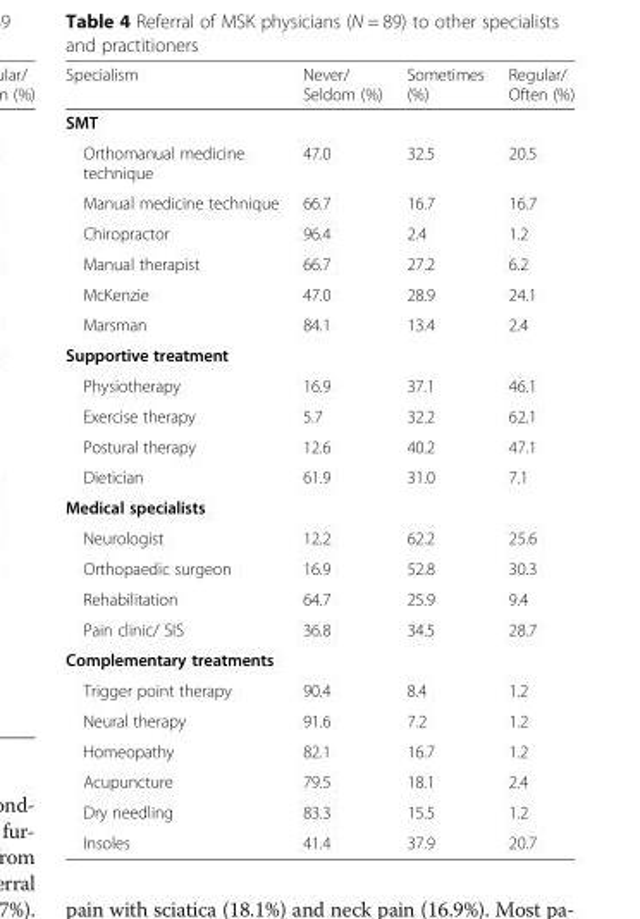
<table><thead><tr><td>Specialism</td><td>Never/ Seldom (%)</td><td>Sometimes (%)</td><td>Regular/ Often (%)</td></tr></thead><tbody><tr><td colspan="4">SMT</td></tr><tr><td>Orthomanual medicine technique</td><td>47.0</td><td>32.5</td><td>20.5</td></tr><tr><td>Manual medicine technique</td><td>66.7</td><td>16.7</td><td>16.7</td></tr><tr><td>Chiropractor</td><td>96.4</td><td>2.4</td><td>1.2</td></tr><tr><td>Manual therapist</td><td>66.7</td><td>27.2</td><td>6.2</td></tr><tr><td>McKenzie</td><td>47.0</td><td>28.9</td><td>24.1</td></tr><tr><td>Marsman</td><td>84.1</td><td>13.4</td><td>2.4</td></tr><tr><td colspan="4">Supportive treatment</td></tr><tr><td>Physiotherapy</td><td>16.9</td><td>37.1</td><td>46.1</td></tr><tr><td>Exercise therapy</td><td>5.7</td><td>32.2</td><td>62.1</td></tr><tr><td>Postural therapy</td><td>12.6</td><td>40.2</td><td>47.1</td></tr><tr><td>Dietician</td><td>61.9</td><td>31.0</td><td>7.1</td></tr><tr><td colspan="4">Medical specialists</td></tr><tr><td>Neurologist</td><td>12.2</td><td>62.2</td><td>25.6</td></tr><tr><td>Orthopaedic surgeon</td><td>16.9</td><td>52.8</td><td>30.3</td></tr><tr><td>Rehabilitation</td><td>64.7</td><td>25.9</td><td>9.4</td></tr><tr><td>Pain clinic/ SIS</td><td>36.8</td><td>34.5</td><td>28.7</td></tr><tr><td colspan="4">Complementary treatments</td></tr><tr><td>Trigger point therapy</td><td>90.4</td><td>8.4</td><td>1.2</td></tr><tr><td>Neural therapy</td><td>91.6</td><td>7.2</td><td>1.2</td></tr><tr><td>Homeopathy</td><td>82.1</td><td>16.7</td><td>1.2</td></tr><tr><td>Acupuncture</td><td>79.5</td><td>18.1</td><td>2.4</td></tr><tr><td>Dry needling</td><td>83.3</td><td>15.5</td><td>1.2</td></tr><tr><td>Insoles</td><td>41.4</td><td>37.9</td><td>20.7</td></tr></tbody></table>